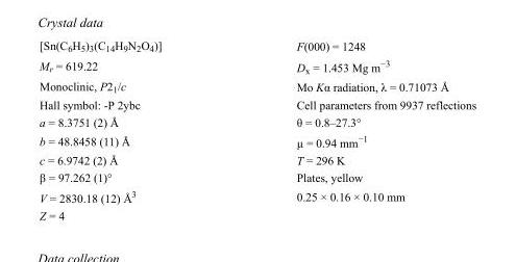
<table><tbody><tr><td>[Sn(C<sub>6</sub>H<sub>5</sub>)<sub>3</sub>(C<sub>14</sub>H<sub>9</sub>N<sub>2</sub>O<sub>4</sub>)]</td><td>F(000) = 1248</td></tr><tr><td>M<sub>r</sub> = 619.22</td><td>D<sub>x</sub> = 1.453 Mg m<sup>−3</sup></td></tr><tr><td>Monoclinic, P2<sub>1</sub>/c</td><td>Mo Kα radiation, λ = 0.71073 Å</td></tr><tr><td>Hall symbol: -P 2ybc</td><td>Cell parameters from 9937 reflections</td></tr><tr><td>a = 8.3751 (2) Å</td><td>θ = 0.8–27.3°</td></tr><tr><td>b = 48.8458 (11) Å</td><td>µ = 0.94 mm<sup>−1</sup></td></tr><tr><td>c = 6.9742 (2) Å</td><td>T = 296 K</td></tr><tr><td>β = 97.262 (1)°</td><td>Plates, yellow</td></tr><tr><td>V = 2830.18 (12) Å<sup>3</sup></td><td>0.25 × 0.16 × 0.10 mm</td></tr><tr><td>Z = 4</td><td></td></tr></tbody></table>